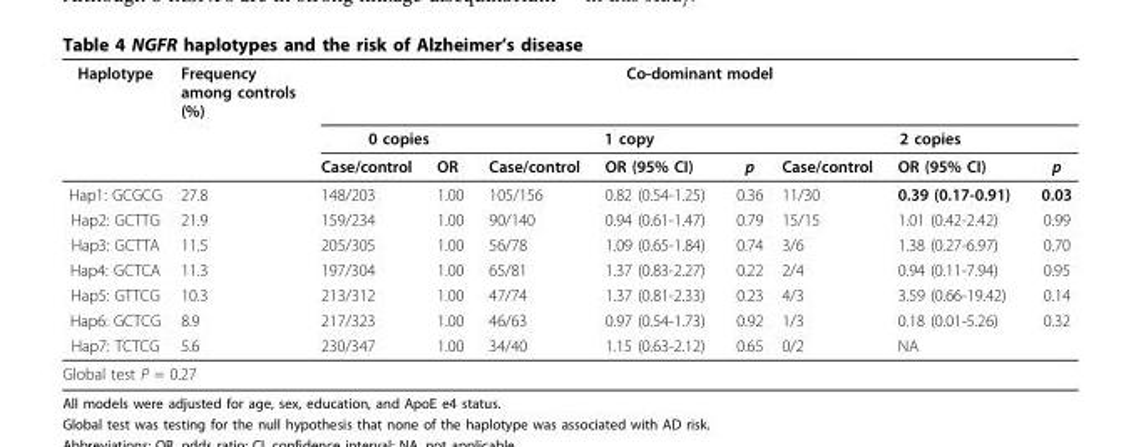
<table><thead><tr><td rowspan="3">Haplotype</td><td rowspan="3">Frequency among controls (%)</td><td colspan="8">Co-dominant model</td></tr><tr><td colspan="2">0 copies</td><td colspan="3">1 copy</td><td colspan="3">2 copies</td></tr><tr><td>Case/control</td><td>OR</td><td>Case/control</td><td>OR (95% CI)</td><td>p</td><td>Case/control</td><td>OR (95% CI)</td><td>p</td></tr></thead><tbody><tr><td>Hap1: GCGCG</td><td>27.8</td><td>148/203</td><td>1.00</td><td>105/156</td><td>0.82 (0.54-1.25)</td><td>0.36</td><td>11/30</td><td>0.39 (0.17-0.91)</td><td>0.03</td></tr><tr><td>Hap2: GCTTG</td><td>21.9</td><td>159/234</td><td>1.00</td><td>90/140</td><td>0.94 (0.61-1.47)</td><td>0.79</td><td>15/15</td><td>1.01 (0.42-2.42)</td><td>0.99</td></tr><tr><td>Hap3: GCTTA</td><td>11.5</td><td>205/305</td><td>1.00</td><td>56/78</td><td>1.09 (0.65-1.84)</td><td>0.74</td><td>3/6</td><td>1.38 (0.27-6.97)</td><td>0.70</td></tr><tr><td>Hap4: GCTCA</td><td>11.3</td><td>197/304</td><td>1.00</td><td>65/81</td><td>1.37 (0.83-2.27)</td><td>0.22</td><td>2/4</td><td>0.94 (0.11-7.94)</td><td>0.95</td></tr><tr><td>Hap5: GTTCG</td><td>10.3</td><td>213/312</td><td>1.00</td><td>47/74</td><td>1.37 (0.81-2.33)</td><td>0.23</td><td>4/3</td><td>3.59 (0.66-19.42)</td><td>0.14</td></tr><tr><td>Hap6: GCTCG</td><td>8.9</td><td>217/323</td><td>1.00</td><td>46/63</td><td>0.97 (0.54-1.73)</td><td>0.92</td><td>1/3</td><td>0.18 (0.01-5.26)</td><td>0.32</td></tr><tr><td>Hap7: TCTCG</td><td>5.6</td><td>230/347</td><td>1.00</td><td>34/40</td><td>1.15 (0.63-2.12)</td><td>0.65</td><td>0/2</td><td>NA</td><td></td></tr><tr><td colspan="10">Global test P = 0.27</td></tr></tbody></table>